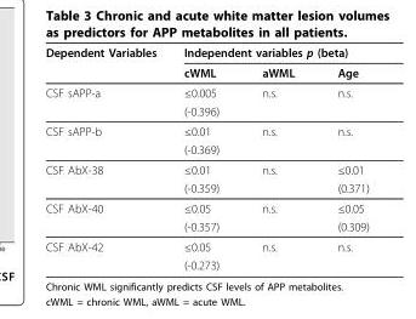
<table><thead><tr><td rowspan="2">Dependent Variables</td><td colspan="3">Independent variables p (beta)</td></tr><tr><td>cWML</td><td>aWML</td><td>Age</td></tr></thead><tbody><tr><td rowspan="2">CSF sAPP-α</td><td>≤0.005</td><td>n.s.</td><td>n.s.</td></tr><tr><td>(-0.396)</td><td></td><td></td></tr><tr><td rowspan="2">CSF sAPP-β</td><td>≤0.01</td><td>n.s.</td><td>n.s.</td></tr><tr><td>(-0.369)</td><td></td><td></td></tr><tr><td rowspan="2">CSF AβX-38</td><td>≤0.01</td><td>n.s.</td><td>≤0.01</td></tr><tr><td>(-0.359)</td><td></td><td>(0.371)</td></tr><tr><td rowspan="2">CSF AβX-40</td><td>≤0.05</td><td>n.s.</td><td>≤0.05</td></tr><tr><td>(-0.357)</td><td></td><td>(0.309)</td></tr><tr><td rowspan="2">CSF AβX-42</td><td>≤0.05</td><td>n.s.</td><td>n.s.</td></tr><tr><td>(-0.273)</td><td></td><td></td></tr></tbody></table>